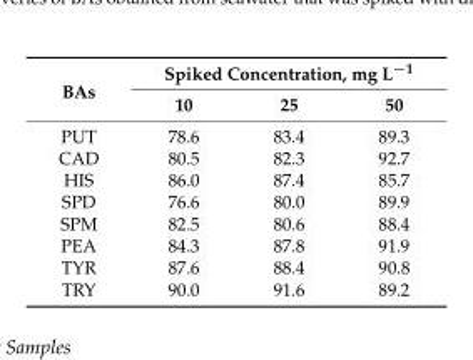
<table><thead><tr><td rowspan="2">BAs</td><td colspan="3">Spiked Concentration, mg L<sup>−1</sup></td></tr><tr><td>10</td><td>25</td><td>50</td></tr></thead><tbody><tr><td>PUT</td><td>78.6</td><td>83.4</td><td>89.3</td></tr><tr><td>CAD</td><td>80.5</td><td>82.3</td><td>92.7</td></tr><tr><td>HIS</td><td>86.0</td><td>87.4</td><td>85.7</td></tr><tr><td>SPD</td><td>76.6</td><td>80.0</td><td>89.9</td></tr><tr><td>SPM</td><td>82.5</td><td>80.6</td><td>88.4</td></tr><tr><td>PEA</td><td>84.3</td><td>87.8</td><td>91.9</td></tr><tr><td>TYR</td><td>87.6</td><td>88.4</td><td>90.8</td></tr><tr><td>TRY</td><td>90.0</td><td>91.6</td><td>89.2</td></tr></tbody></table>